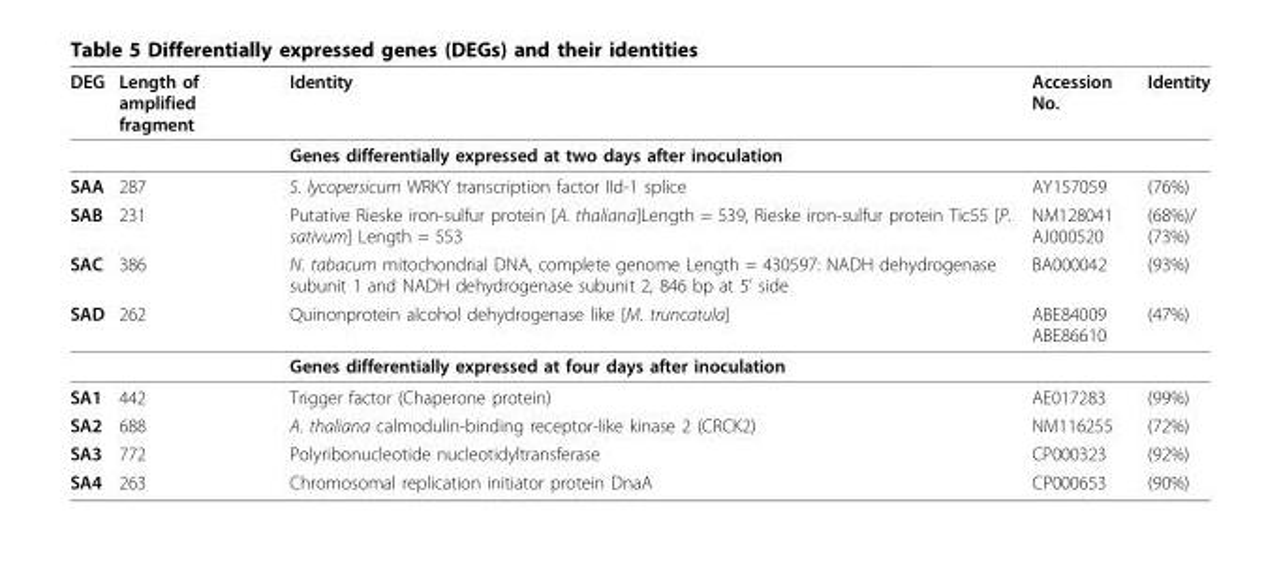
<table><thead><tr><td>DEG</td><td>Length of amplified fragment</td><td>Identity</td><td>Accession No.</td><td>Identity</td></tr></thead><tbody><tr><td></td><td></td><td>Genes differentially expressed at two days after inoculation</td><td></td><td></td></tr><tr><td>SAA</td><td>287</td><td>S. lycopersicum WRKY transcription factor IId-1 splice</td><td>AY157059</td><td>(76%)</td></tr><tr><td>SAB</td><td>231</td><td>Putative Rieske iron-sulfur protein [A. thaliana]Length = 539, Rieske iron-sulfur protein Tic55 [P. sativum] Length = 553</td><td>NM128041 AJ000520</td><td>(68%)/ (73%)</td></tr><tr><td>SAC</td><td>386</td><td>N. tabacum mitochondrial DNA, complete genome Length = 430597: NADH dehydrogenase subunit 1 and NADH dehydrogenase subunit 2, 846 bp at 5’ side</td><td>BA000042</td><td>(93%)</td></tr><tr><td rowspan="2">SAD</td><td>262</td><td>Quinonprotein alcohol dehydrogenase like [M. truncatula]</td><td>ABE84009 ABE86610</td><td>(47%)</td></tr><tr><td></td><td>Genes differentially expressed at four days after inoculation</td><td></td><td></td></tr><tr><td>SA1</td><td>442</td><td>Trigger factor (Chaperone protein)</td><td>AE017283</td><td>(99%)</td></tr><tr><td>SA2</td><td>688</td><td>A. thaliana calmodulin-binding receptor-like kinase 2 (CRCK2)</td><td>NM116255</td><td>(72%)</td></tr><tr><td>SA3</td><td>772</td><td>Polyribonucleotide nucleotidyltransferase</td><td>CP000323</td><td>(92%)</td></tr><tr><td>SA4</td><td>263</td><td>Chromosomal replication initiator protein DnaA</td><td>CP000653</td><td>(90%)</td></tr></tbody></table>